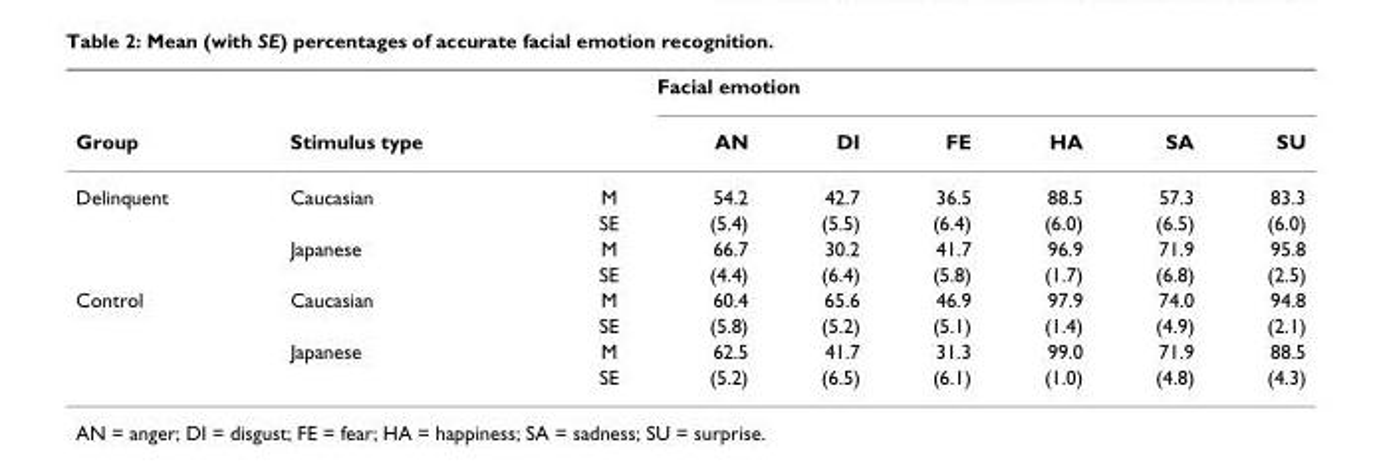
<table><thead><tr><td rowspan="2">Group</td><td rowspan="2">Stimulus type</td><td rowspan="2"></td><td colspan="6">Facial emotion</td></tr><tr><td>AN</td><td>DI</td><td>FE</td><td>HA</td><td>SA</td><td>SU</td></tr></thead><tbody><tr><td rowspan="4">Delinquent</td><td>Caucasian</td><td>M</td><td>54.2</td><td>42.7</td><td>36.5</td><td>88.5</td><td>57.3</td><td>83.3</td></tr><tr><td></td><td>SE</td><td>(5.4)</td><td>(5.5)</td><td>(6.4)</td><td>(6.0)</td><td>(6.5)</td><td>(6.0)</td></tr><tr><td>Japanese</td><td>M</td><td>66.7</td><td>30.2</td><td>41.7</td><td>96.9</td><td>71.9</td><td>95.8</td></tr><tr><td></td><td>SE</td><td>(4.4)</td><td>(6.4)</td><td>(5.8)</td><td>(1.7)</td><td>(6.8)</td><td>(2.5)</td></tr><tr><td rowspan="4">Control</td><td>Caucasian</td><td>M</td><td>60.4</td><td>65.6</td><td>46.9</td><td>97.9</td><td>74.0</td><td>94.8</td></tr><tr><td></td><td>SE</td><td>(5.8)</td><td>(5.2)</td><td>(5.1)</td><td>(1.4)</td><td>(4.9)</td><td>(2.1)</td></tr><tr><td>Japanese</td><td>M</td><td>62.5</td><td>41.7</td><td>31.3</td><td>99.0</td><td>71.9</td><td>88.5</td></tr><tr><td></td><td>SE</td><td>(5.2)</td><td>(6.5)</td><td>(6.1)</td><td>(1.0)</td><td>(4.8)</td><td>(4.3)</td></tr></tbody></table>